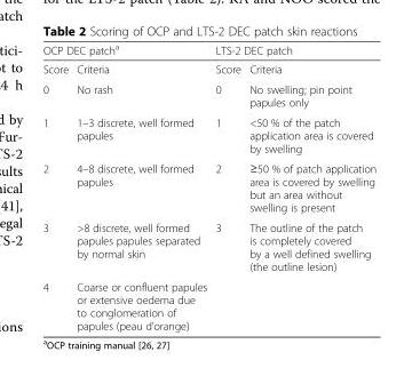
<table><thead><tr><td colspan="2">OCP DEC patch<sup>a</sup></td><td colspan="2">LTS-2 DEC patch</td></tr><tr><td>Score</td><td>Criteria</td><td>Score</td><td>Criteria</td></tr></thead><tbody><tr><td>0</td><td>No rash</td><td>0</td><td>No swelling; pin point papules only</td></tr><tr><td>1</td><td>1–3 discrete, well formed papules</td><td>1</td><td>&lt;50 % of the patch application area is covered by swelling</td></tr><tr><td>2</td><td>4–8 discrete, well formed papules</td><td>2</td><td>≥50 % of patch application area is covered by swelling but an area without swelling is present</td></tr><tr><td>3</td><td>&gt;8 discrete, well formed papules papules separated by normal skin</td><td>3</td><td>The outline of the patch is completely covered by a well defined swelling (the outline lesion)</td></tr><tr><td>4</td><td>Coarse or confluent papules or extensive oedema due to conglomeration of papules (peau d’orange)</td><td></td><td></td></tr></tbody></table>